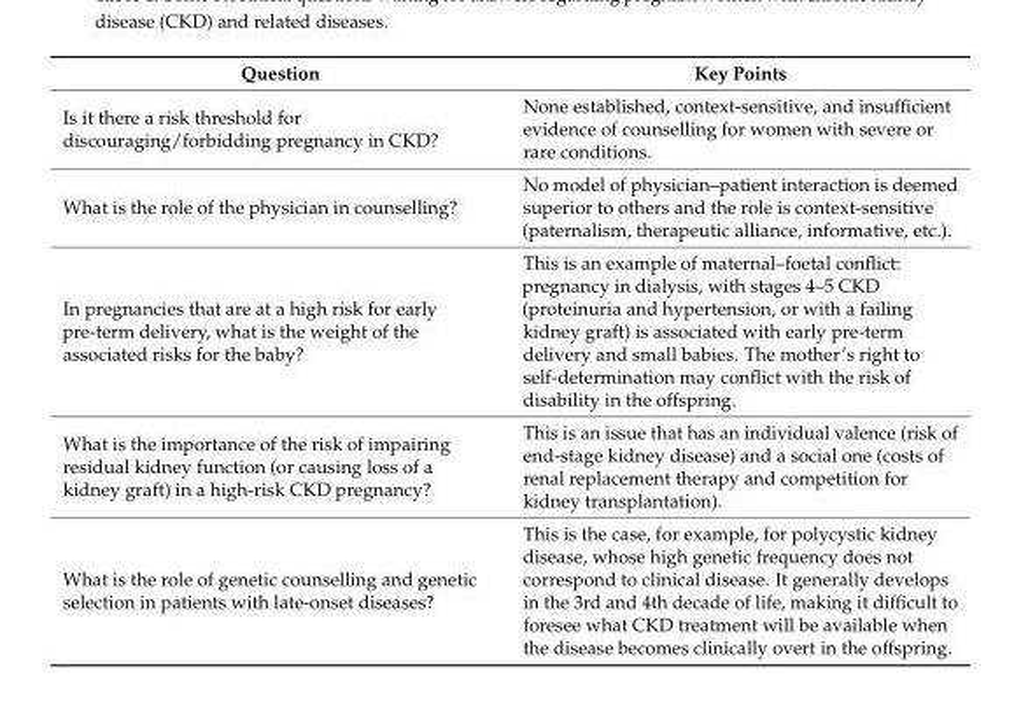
<table><thead><tr><td>Question</td><td>Key Points</td></tr></thead><tbody><tr><td>Is it there a risk threshold for discouraging/forbidding pregnancy in CKD?</td><td>None established, context-sensitive, and insufficient evidence of counselling for women with severe or rare conditions.</td></tr><tr><td>What is the role of the physician in counselling?</td><td>No model of physician–patient interaction is deemed superior to others and the role is context-sensitive (paternalism, therapeutic alliance, informative, etc.).</td></tr><tr><td>In pregnancies that are at a high risk for early pre-term delivery, what is the weight of the associated risks for the baby?</td><td>This is an example of maternal–foetal conflict: pregnancy in dialysis, with stages 4–5 CKD (proteinuria and hypertension, or with a failing kidney graft) is associated with early pre-term delivery and small babies. The mother’s right to self-determination may conflict with the risk of disability in the offspring.</td></tr><tr><td>What is the importance of the risk of impairing residual kidney function (or causing loss of a kidney graft) in a high-risk CKD pregnancy?</td><td>This is an issue that has an individual valence (risk of end-stage kidney disease) and a social one (costs of renal replacement therapy and competition for kidney transplantation).</td></tr><tr><td>What is the role of genetic counselling and genetic selection in patients with late-onset diseases?</td><td>This is the case, for example, for polycystic kidney disease, whose high genetic frequency does not correspond to clinical disease. It generally develops in the 3rd and 4th decade of life, making it difficult to foresee what CKD treatment will be available when the disease becomes clinically overt in the offspring.</td></tr></tbody></table>